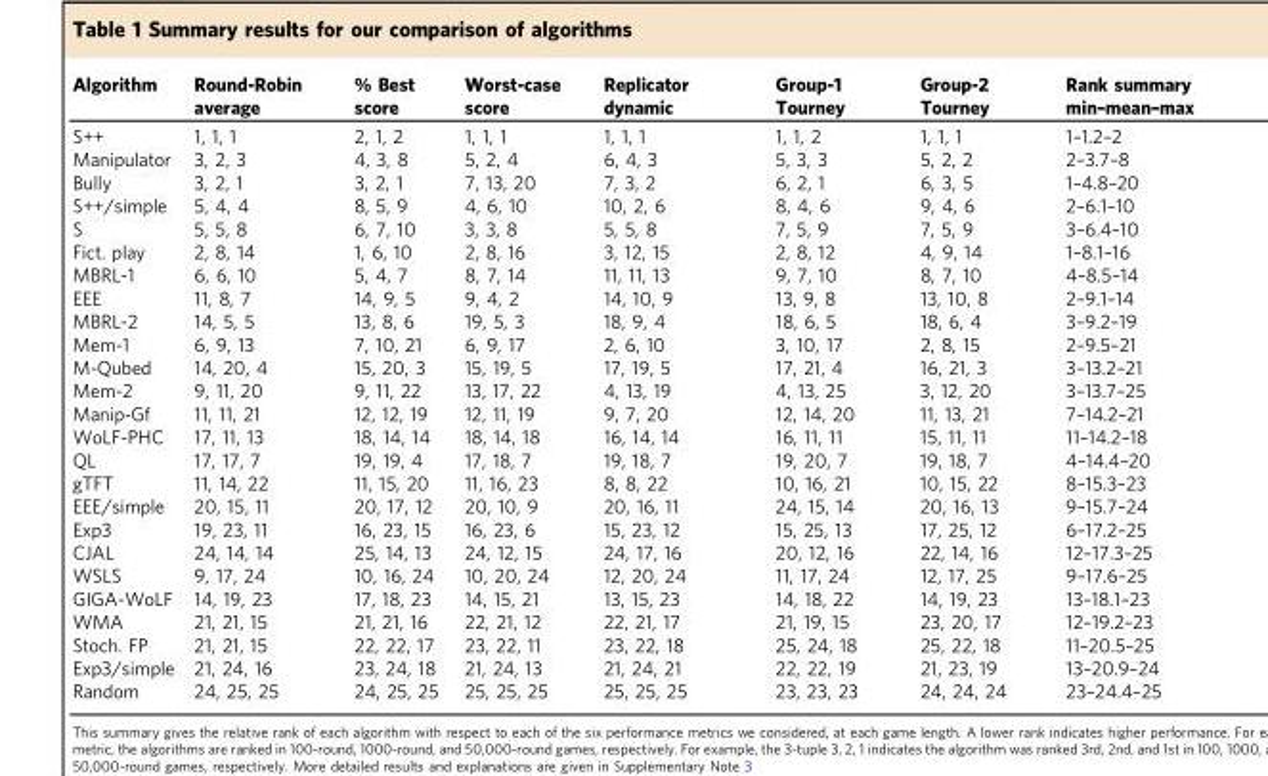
<table><thead><tr><td>Algorithm</td><td>Round-Robin average</td><td>% Best score</td><td>Worst-case score</td><td>Replicator dynamic</td><td>Group-1 Tourney</td><td>Group-2 Tourney</td><td>Rank summary min–mean–max</td></tr></thead><tbody><tr><td>S++</td><td>1, 1, 1</td><td>2, 1, 2</td><td>1, 1, 1</td><td>1, 1, 1</td><td>1, 1, 2</td><td>1, 1, 1</td><td>1–1.2–2</td></tr><tr><td>Manipulator</td><td>3, 2, 3</td><td>4, 3, 8</td><td>5, 2, 4</td><td>6, 4, 3</td><td>5, 3, 3</td><td>5, 2, 2</td><td>2–3.7–8</td></tr><tr><td>Bully</td><td>3, 2, 1</td><td>3, 2, 1</td><td>7, 13, 20</td><td>7, 3, 2</td><td>6, 2, 1</td><td>6, 3, 5</td><td>1–4.8–20</td></tr><tr><td>S++/simple</td><td>5, 4, 4</td><td>8, 5, 9</td><td>4, 6, 10</td><td>10, 2, 6</td><td>8, 4, 6</td><td>9, 4, 6</td><td>2–6.1–10</td></tr><tr><td>S</td><td>5, 5, 8</td><td>6, 7, 10</td><td>3, 3, 8</td><td>5, 5, 8</td><td>7, 5, 9</td><td>7, 5, 9</td><td>3–6.4–10</td></tr><tr><td>Fict. play</td><td>2, 8, 14</td><td>1, 6, 10</td><td>2, 8, 16</td><td>3, 12, 15</td><td>2, 8, 12</td><td>4, 9, 14</td><td>1–8.1–16</td></tr><tr><td>MBRL-1</td><td>6, 6, 10</td><td>5, 4, 7</td><td>8, 7, 14</td><td>11, 11, 13</td><td>9, 7, 10</td><td>8, 7, 10</td><td>4–8.5–14</td></tr><tr><td>EEE</td><td>11, 8, 7</td><td>14, 9, 5</td><td>9, 4, 2</td><td>14, 10, 9</td><td>13, 9, 8</td><td>13, 10, 8</td><td>2–9.1–14</td></tr><tr><td>MBRL-2</td><td>14, 5, 5</td><td>13, 8, 6</td><td>19, 5, 3</td><td>18, 9, 4</td><td>18, 6, 5</td><td>18, 6, 4</td><td>3–9.2–19</td></tr><tr><td>Mem-1</td><td>6, 9, 13</td><td>7, 10, 21</td><td>6, 9, 17</td><td>2, 6, 10</td><td>3, 10, 17</td><td>2, 8, 15</td><td>2–9.5–21</td></tr><tr><td>M-Qubed</td><td>14, 20, 4</td><td>15, 20, 3</td><td>15, 19, 5</td><td>17, 19, 5</td><td>17, 21, 4</td><td>16, 21, 3</td><td>3–13.2–21</td></tr><tr><td>Mem-2</td><td>9, 11, 20</td><td>9, 11, 22</td><td>13, 17, 22</td><td>4, 13, 19</td><td>4, 13, 25</td><td>3, 12, 20</td><td>3–13.7–25</td></tr><tr><td>Manip-Gf</td><td>11, 11, 21</td><td>12, 12, 19</td><td>12, 11, 19</td><td>9, 7, 20</td><td>12, 14, 20</td><td>11, 13, 21</td><td>7–14.2–21</td></tr><tr><td>WoLF-PHC</td><td>17, 11, 13</td><td>18, 14, 14</td><td>18, 14, 18</td><td>16, 14, 14</td><td>16, 11, 11</td><td>15, 11, 11</td><td>11–14.2–18</td></tr><tr><td>QL</td><td>17, 17, 7</td><td>19, 19, 4</td><td>17, 18, 7</td><td>19, 18, 7</td><td>19, 20, 7</td><td>19, 18, 7</td><td>4–14.4–20</td></tr><tr><td>gTFT</td><td>11, 14, 22</td><td>11, 15, 20</td><td>11, 16, 23</td><td>8, 8, 22</td><td>10, 16, 21</td><td>10, 15, 22</td><td>8–15.3–23</td></tr><tr><td>EEE/simple</td><td>20, 15, 11</td><td>20, 17, 12</td><td>20, 10, 9</td><td>20, 16, 11</td><td>24, 15, 14</td><td>20, 16, 13</td><td>9–15.7–24</td></tr><tr><td>Exp3</td><td>19, 23, 11</td><td>16, 23, 15</td><td>16, 23, 6</td><td>15, 23, 12</td><td>15, 25, 13</td><td>17, 25, 12</td><td>6–17.2–25</td></tr><tr><td>CJAL</td><td>24, 14, 14</td><td>25, 14, 13</td><td>24, 12, 15</td><td>24, 17, 16</td><td>20, 12, 16</td><td>22, 14, 16</td><td>12–17.3–25</td></tr><tr><td>WSLS</td><td>9, 17, 24</td><td>10, 16, 24</td><td>10, 20, 24</td><td>12, 20, 24</td><td>11, 17, 24</td><td>12, 17, 25</td><td>9–17.6–25</td></tr><tr><td>GIGA-WoLF</td><td>14, 19, 23</td><td>17, 18, 23</td><td>14, 15, 21</td><td>13, 15, 23</td><td>14, 18, 22</td><td>14, 19, 23</td><td>13–18.1–23</td></tr><tr><td>WMA</td><td>21, 21, 15</td><td>21, 21, 16</td><td>22, 21, 12</td><td>22, 21, 17</td><td>21, 19, 15</td><td>23, 20, 17</td><td>12–19.2–23</td></tr><tr><td>Stoch. FP</td><td>21, 21, 15</td><td>22, 22, 17</td><td>23, 22, 11</td><td>23, 22, 18</td><td>25, 24, 18</td><td>25, 22, 18</td><td>11–20.5–25</td></tr><tr><td>Exp3/simple</td><td>21, 24, 16</td><td>23, 24, 18</td><td>21, 24, 13</td><td>21, 24, 21</td><td>22, 22, 19</td><td>21, 23, 19</td><td>13–20.9–24</td></tr><tr><td>Random</td><td>24, 25, 25</td><td>24, 25, 25</td><td>25, 25, 25</td><td>25, 25, 25</td><td>23, 23, 23</td><td>24, 24, 24</td><td>23–24.4–25</td></tr></tbody></table>